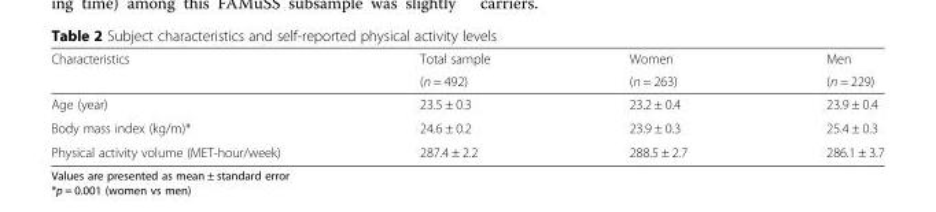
<table><thead><tr><td rowspan="2">Characteristics</td><td rowspan="2">Total sample (n = 492)</td><td rowspan="2">Women (n = 263)</td><td rowspan="2">Men (n = 229)</td></tr><tr></tr></thead><tbody><tr><td>Age (year)</td><td>23.5 ± 0.3</td><td>23.2 ± 0.4</td><td>23.9 ± 0.4</td></tr><tr><td>Body mass index (kg/m)*</td><td>24.6 ± 0.2</td><td>23.9 ± 0.3</td><td>25.4 ± 0.3</td></tr><tr><td>Physical activity volume (MET-hour/week)</td><td>287.4 ± 2.2</td><td>288.5 ± 2.7</td><td>286.1 ± 3.7</td></tr></tbody></table>